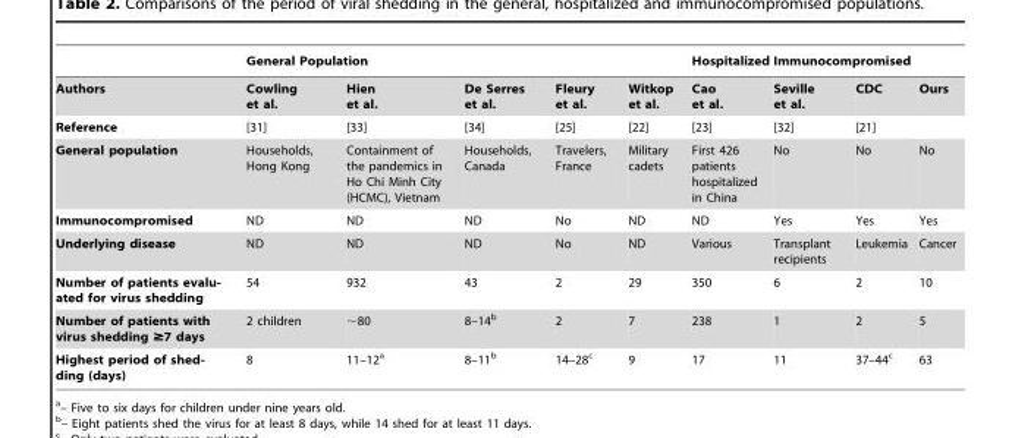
<table><thead><tr><td rowspan="2">Authors</td><td colspan="5">General Population</td><td rowspan="2">Hospitalized Cao et al.</td><td colspan="3">Immunocompromised</td></tr><tr><td>Cowling et al.</td><td>Hien et al.</td><td>De Serres et al.</td><td>Fleury et al.</td><td>Witkop et al.</td><td>Seville et al.</td><td>CDC</td><td>Ours</td></tr></thead><tbody><tr><td>Reference</td><td>[31]</td><td>[33]</td><td>[34]</td><td>[25]</td><td>[22]</td><td>[23]</td><td>[32]</td><td>[21]</td><td></td></tr><tr><td>General population</td><td>Households, Hong Kong</td><td>Containment of the pandemics in Ho Chi Minh City (HCMC), Vietnam</td><td>Households, Canada</td><td>Travelers, France</td><td>Military cadets</td><td>First 426 patients hospitalized in China</td><td>No</td><td>No</td><td>No</td></tr><tr><td>Immunocompromised</td><td>ND</td><td>ND</td><td>ND</td><td>No</td><td>ND</td><td>ND</td><td>Yes</td><td>Yes</td><td>Yes</td></tr><tr><td>Underlying disease</td><td>ND</td><td>ND</td><td>ND</td><td>No</td><td>ND</td><td>Various</td><td>Transplant recipients</td><td>Leukemia</td><td>Cancer</td></tr><tr><td>Number of patients evalu- ated for virus shedding</td><td>54</td><td>932</td><td>43</td><td>2</td><td>29</td><td>350</td><td>6</td><td>2</td><td>10</td></tr><tr><td>Number of patients with virus shedding ≥7 days</td><td>2 children</td><td>∼80</td><td>8–14<sup>b</sup></td><td>2</td><td>7</td><td>238</td><td>1</td><td>2</td><td>5</td></tr><tr><td>Highest period of shed- ding (days)</td><td>8</td><td>11–12<sup>a</sup></td><td>8–11<sup>b</sup></td><td>14–28<sup>c</sup></td><td>9</td><td>17</td><td>11</td><td>37–44<sup>c</sup></td><td>63</td></tr></tbody></table>